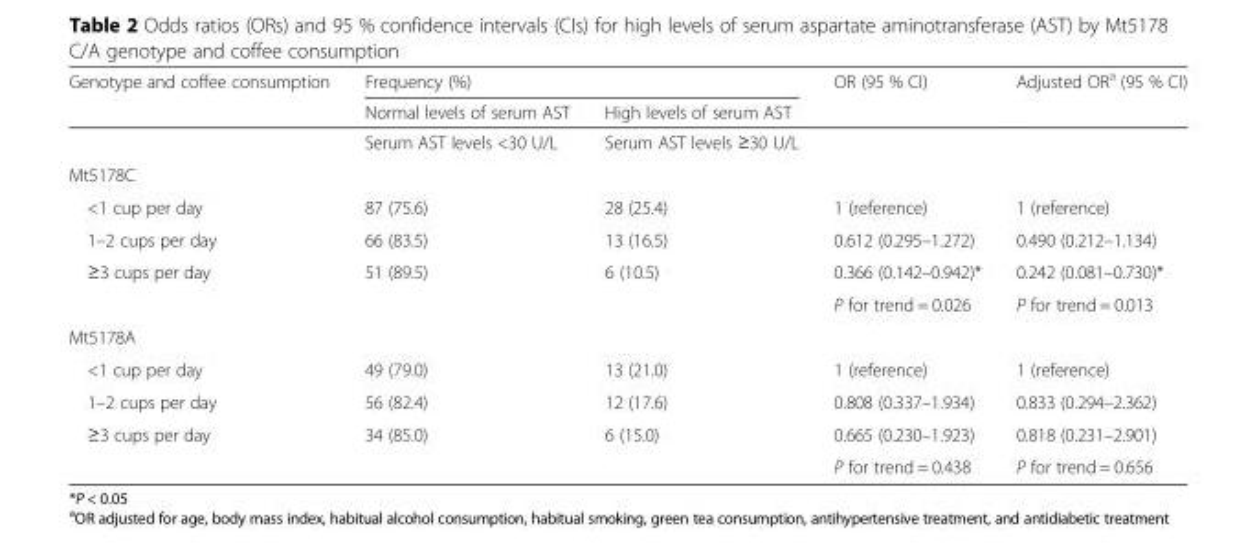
<table><thead><tr><td rowspan="2">Genotype and coffee consumption</td><td colspan="2">Frequency (%)</td><td rowspan="2">OR (95 % CI)</td><td rowspan="2">Adjusted OR<sup>a</sup> (95 % CI)</td></tr><tr><td>Normal levels of serum AST</td><td>High levels of serum AST</td></tr></thead><tbody><tr><td></td><td>Serum AST levels &lt;30 U/L</td><td>Serum AST levels ≥30 U/L</td><td></td><td></td></tr><tr><td colspan="5">Mt5178C</td></tr><tr><td>&lt;1 cup per day</td><td>87 (75.6)</td><td>28 (25.4)</td><td>1 (reference)</td><td>1 (reference)</td></tr><tr><td>1–2 cups per day</td><td>66 (83.5)</td><td>13 (16.5)</td><td>0.612 (0.295–1.272)</td><td>0.490 (0.212–1.134)</td></tr><tr><td rowspan="2">≥3 cups per day</td><td>51 (89.5)</td><td>6 (10.5)</td><td>0.366 (0.142–0.942)*</td><td>0.242 (0.081–0.730)*</td></tr><tr><td></td><td></td><td>P for trend = 0.026</td><td>P for trend = 0.013</td></tr><tr><td colspan="5">Mt5178A</td></tr><tr><td>&lt;1 cup per day</td><td>49 (79.0)</td><td>13 (21.0)</td><td>1 (reference)</td><td>1 (reference)</td></tr><tr><td>1–2 cups per day</td><td>56 (82.4)</td><td>12 (17.6)</td><td>0.808 (0.337–1.934)</td><td>0.833 (0.294–2.362)</td></tr><tr><td rowspan="2">≥3 cups per day</td><td>34 (85.0)</td><td>6 (15.0)</td><td>0.665 (0.230–1.923)</td><td>0.818 (0.231–2.901)</td></tr><tr><td></td><td></td><td>P for trend = 0.438</td><td>P for trend = 0.656</td></tr></tbody></table>